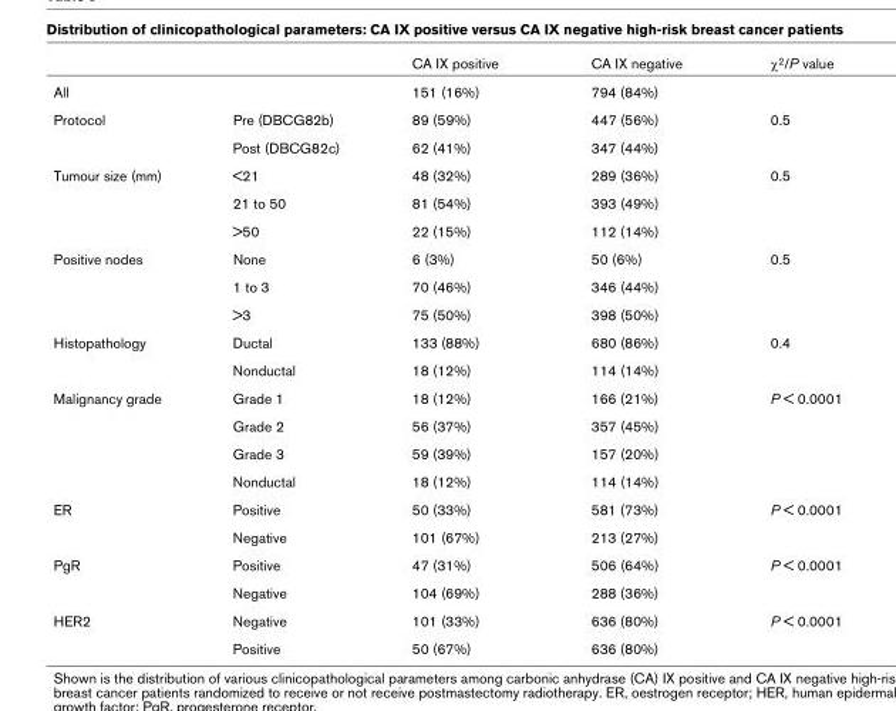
<table><thead><tr><td></td><td></td><td>CA IX positive</td><td>CA IX negative</td><td>χ<sup>2</sup>/P value</td></tr></thead><tbody><tr><td>All</td><td></td><td>151 (16%)</td><td>794 (84%)</td><td></td></tr><tr><td rowspan="2">Protocol</td><td>Pre (DBCG82b)</td><td>89 (59%)</td><td>447 (56%)</td><td>0.5</td></tr><tr><td>Post (DBCG82c)</td><td>62 (41%)</td><td>347 (44%)</td><td></td></tr><tr><td rowspan="3">Tumour size (mm)</td><td>&lt;21</td><td>48 (32%)</td><td>289 (36%)</td><td>0.5</td></tr><tr><td>21 to 50</td><td>81 (54%)</td><td>393 (49%)</td><td></td></tr><tr><td>&gt;50</td><td>22 (15%)</td><td>112 (14%)</td><td></td></tr><tr><td rowspan="3">Positive nodes</td><td>None</td><td>6 (3%)</td><td>50 (6%)</td><td>0.5</td></tr><tr><td>1 to 3</td><td>70 (46%)</td><td>346 (44%)</td><td></td></tr><tr><td>&gt;3</td><td>75 (50%)</td><td>398 (50%)</td><td></td></tr><tr><td rowspan="2">Histopathology</td><td>Ductal</td><td>133 (88%)</td><td>680 (86%)</td><td>0.4</td></tr><tr><td>Nonductal</td><td>18 (12%)</td><td>114 (14%)</td><td></td></tr><tr><td rowspan="4">Malignancy grade</td><td>Grade 1</td><td>18 (12%)</td><td>166 (21%)</td><td>P &lt; 0.0001</td></tr><tr><td>Grade 2</td><td>56 (37%)</td><td>357 (45%)</td><td></td></tr><tr><td>Grade 3</td><td>59 (39%)</td><td>157 (20%)</td><td></td></tr><tr><td>Nonductal</td><td>18 (12%)</td><td>114 (14%)</td><td></td></tr><tr><td rowspan="2">ER</td><td>Positive</td><td>50 (33%)</td><td>581 (73%)</td><td>P &lt; 0.0001</td></tr><tr><td>Negative</td><td>101 (67%)</td><td>213 (27%)</td><td></td></tr><tr><td rowspan="2">PgR</td><td>Positive</td><td>47 (31%)</td><td>506 (64%)</td><td>P &lt; 0.0001</td></tr><tr><td>Negative</td><td>104 (69%)</td><td>288 (36%)</td><td></td></tr><tr><td rowspan="2">HER2</td><td>Negative</td><td>101 (33%)</td><td>636 (80%)</td><td>P &lt; 0.0001</td></tr><tr><td>Positive</td><td>50 (67%)</td><td>636 (80%)</td><td></td></tr></tbody></table>